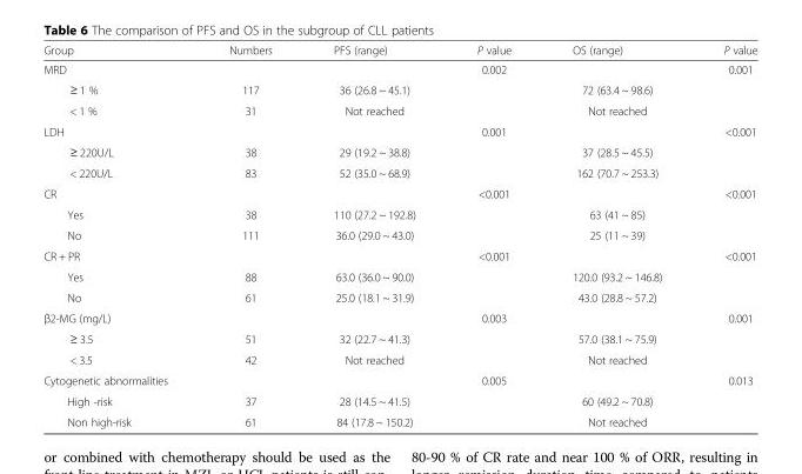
<table><thead><tr><td>Group</td><td>Numbers</td><td>PFS (range)</td><td>P value</td><td>OS (range)</td><td>P value</td></tr></thead><tbody><tr><td>MRD</td><td></td><td></td><td>0.002</td><td></td><td>0.001</td></tr><tr><td>≥ 1 %</td><td>117</td><td>36 (26.8 ~ 45.1)</td><td></td><td>72 (63.4 ~ 98.6)</td><td></td></tr><tr><td>&lt; 1 %</td><td>31</td><td>Not reached</td><td></td><td>Not reached</td><td></td></tr><tr><td>LDH</td><td></td><td></td><td>0.001</td><td></td><td>&lt;0.001</td></tr><tr><td>≥ 220U/L</td><td>38</td><td>29 (19.2 ~ 38.8)</td><td></td><td>37 (28.5 ~ 45.5)</td><td></td></tr><tr><td>&lt; 220U/L</td><td>83</td><td>52 (35.0 ~ 68.9)</td><td></td><td>162 (70.7 ~ 253.3)</td><td></td></tr><tr><td>CR</td><td></td><td></td><td>&lt;0.001</td><td></td><td>&lt;0.001</td></tr><tr><td>Yes</td><td>38</td><td>110 (27.2 ~ 192.8)</td><td></td><td>63 (41 ~ 85)</td><td></td></tr><tr><td>No</td><td>111</td><td>36.0 (29.0 ~ 43.0)</td><td></td><td>25 (11 ~ 39)</td><td></td></tr><tr><td>CR + PR</td><td></td><td></td><td>&lt;0.001</td><td></td><td>&lt;0.001</td></tr><tr><td>Yes</td><td>88</td><td>63.0 (36.0 ~ 90.0)</td><td></td><td>120.0 (93.2 ~ 146.8)</td><td></td></tr><tr><td>No</td><td>61</td><td>25.0 (18.1 ~ 31.9)</td><td></td><td>43.0 (28.8 ~ 57.2)</td><td></td></tr><tr><td>β2-MG (mg/L)</td><td></td><td></td><td>0.003</td><td></td><td>0.001</td></tr><tr><td>≥ 3.5</td><td>51</td><td>32 (22.7 ~ 41.3)</td><td></td><td>57.0 (38.1 ~ 75.9)</td><td></td></tr><tr><td>&lt; 3.5</td><td>42</td><td>Not reached</td><td></td><td>Not reached</td><td></td></tr><tr><td>Cytogenetic abnormalities</td><td></td><td></td><td>0.005</td><td></td><td>0.013</td></tr><tr><td>High -risk</td><td>37</td><td>28 (14.5 ~ 41.5)</td><td></td><td>60 (49.2 ~ 70.8)</td><td></td></tr><tr><td>Non high-risk</td><td>61</td><td>84 (17.8 ~ 150.2)</td><td></td><td>Not reached</td><td></td></tr></tbody></table>